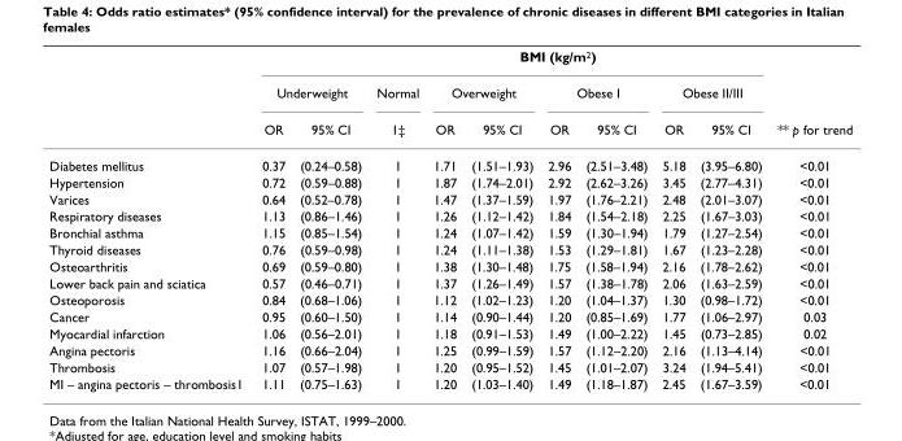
<table><thead><tr><td rowspan="3"></td><td colspan="10">BMI (kg/m<sup>2</sup>)</td></tr><tr><td colspan="2">Underweight</td><td rowspan="2">Normal 1‡</td><td colspan="2">Overweight</td><td colspan="2">Obese I</td><td colspan="2">Obese II/III</td><td rowspan="2">** p for trend</td></tr><tr><td>OR</td><td>95% CI</td><td>OR</td><td>95% CI</td><td>OR</td><td>95% CI</td><td>OR</td><td>95% CI</td></tr></thead><tbody><tr><td>Diabetes mellitus</td><td>0.37</td><td>(0.24–0.58)</td><td>1</td><td>1.71</td><td>(1.51–1.93)</td><td>2.96</td><td>(2.51–3.48)</td><td>5.18</td><td>(3.95–6.80)</td><td>&lt;0.01</td></tr><tr><td>Hypertension</td><td>0.72</td><td>(0.59–0.88)</td><td>1</td><td>1.87</td><td>(1.74–2.01)</td><td>2.92</td><td>(2.62–3.26)</td><td>3.45</td><td>(2.77–4.31)</td><td>&lt;0.01</td></tr><tr><td>Varices</td><td>0.64</td><td>(0.52–0.78)</td><td>1</td><td>1.47</td><td>(1.37–1.59)</td><td>1.97</td><td>(1.76–2.21)</td><td>2.48</td><td>(2.01–3.07)</td><td>&lt;0.01</td></tr><tr><td>Respiratory diseases</td><td>1.13</td><td>(0.86–1.46)</td><td>1</td><td>1.26</td><td>(1.12–1.42)</td><td>1.84</td><td>(1.54–2.18)</td><td>2.25</td><td>(1.67–3.03)</td><td>&lt;0.01</td></tr><tr><td>Bronchial asthma</td><td>1.15</td><td>(0.85–1.54)</td><td>1</td><td>1.24</td><td>(1.07–1.42)</td><td>1.59</td><td>(1.30–1.94)</td><td>1.79</td><td>(1.27–2.54)</td><td>&lt;0.01</td></tr><tr><td>Thyroid diseases</td><td>0.76</td><td>(0.59–0.98)</td><td>1</td><td>1.24</td><td>(1.11–1.38)</td><td>1.53</td><td>(1.29–1.81)</td><td>1.67</td><td>(1.23–2.28)</td><td>&lt;0.01</td></tr><tr><td>Osteoarthritis</td><td>0.69</td><td>(0.59–0.80)</td><td>1</td><td>1.38</td><td>(1.30–1.48)</td><td>1.75</td><td>(1.58–1.94)</td><td>2.16</td><td>(1.78–2.62)</td><td>&lt;0.01</td></tr><tr><td>Lower back pain and sciatica</td><td>0.57</td><td>(0.46–0.71)</td><td>1</td><td>1.37</td><td>(1.26–1.49)</td><td>1.57</td><td>(1.38–1.78)</td><td>2.06</td><td>(1.63–2.59)</td><td>&lt;0.01</td></tr><tr><td>Osteoporosis</td><td>0.84</td><td>(0.68–1.06)</td><td>1</td><td>1.12</td><td>(1.02–1.23)</td><td>1.20</td><td>(1.04–1.37)</td><td>1.30</td><td>(0.98–1.72)</td><td>&lt;0.01</td></tr><tr><td>Cancer</td><td>0.95</td><td>(0.60–1.50)</td><td>1</td><td>1.14</td><td>(0.90–1.44)</td><td>1.20</td><td>(0.85–1.69)</td><td>1.77</td><td>(1.06–2.97)</td><td>0.03</td></tr><tr><td>Myocardial infarction</td><td>1.06</td><td>(0.56–2.01)</td><td>1</td><td>1.18</td><td>(0.91–1.53)</td><td>1.49</td><td>(1.00–2.22)</td><td>1.45</td><td>(0.73–2.85)</td><td>0.02</td></tr><tr><td>Angina pectoris</td><td>1.16</td><td>(0.66–2.04)</td><td>1</td><td>1.25</td><td>(0.99–1.59)</td><td>1.57</td><td>(1.12–2.20)</td><td>2.16</td><td>(1.13–4.14)</td><td>&lt;0.01</td></tr><tr><td>Thrombosis</td><td>1.07</td><td>(0.57–1.98)</td><td>1</td><td>1.20</td><td>(0.95–1.52)</td><td>1.45</td><td>(1.01–2.07)</td><td>3.24</td><td>(1.94–5.41)</td><td>&lt;0.01</td></tr><tr><td>MI – angina pectoris – thrombosis1</td><td>1.11</td><td>(0.75–1.63)</td><td>1</td><td>1.20</td><td>(1.03–1.40)</td><td>1.49</td><td>(1.18–1.87)</td><td>2.45</td><td>(1.67–3.59)</td><td>&lt;0.01</td></tr></tbody></table>